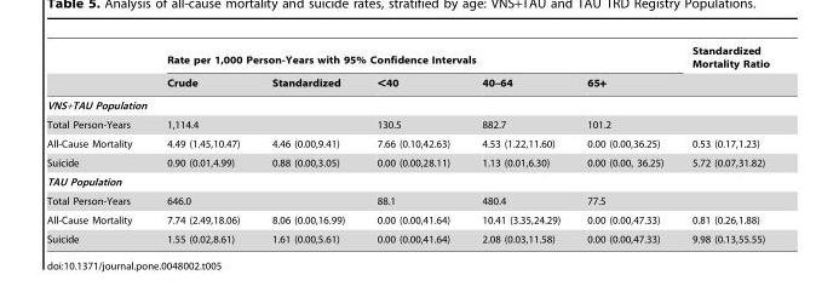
<table><thead><tr><td rowspan="2"></td><td colspan="5">Rate per 1,000 Person-Years with 95% Confidence Intervals</td><td rowspan="2">Standardized Mortality Ratio</td></tr><tr><td>Crude</td><td>Standardized</td><td>&lt;40</td><td>40–64</td><td>65+</td></tr></thead><tbody><tr><td colspan="7">VNS+TAU Population</td></tr><tr><td>Total Person-Years</td><td>1,114.4</td><td></td><td>130.5</td><td>882.7</td><td>101.2</td><td></td></tr><tr><td>All-Cause Mortality</td><td>4.49 (1.45,10.47)</td><td>4.46 (0.00,9.41)</td><td>7.66 (0.10,42.63)</td><td>4.53 (1.22,11.60)</td><td>0.00 (0.00,36.25)</td><td>0.53 (0.17,1.23)</td></tr><tr><td>Suicide</td><td>0.90 (0.01,4.99)</td><td>0.88 (0.00,3.05)</td><td>0.00 (0.00,28.11)</td><td>1.13 (0.01,6.30)</td><td>0.00 (0.00, 36.25)</td><td>5.72 (0.07,31.82)</td></tr><tr><td colspan="7">TAU Population</td></tr><tr><td>Total Person-Years</td><td>646.0</td><td></td><td>88.1</td><td>480.4</td><td>77.5</td><td></td></tr><tr><td>All-Cause Mortality</td><td>7.74 (2.49,18.06)</td><td>8.06 (0.00,16.99)</td><td>0.00 (0.00,41.64)</td><td>10.41 (3.35,24.29)</td><td>0.00 (0.00,47.33)</td><td>0.81 (0.26,1.88)</td></tr><tr><td>Suicide</td><td>1.55 (0.02,8.61)</td><td>1.61 (0.00,5.61)</td><td>0.00 (0.00,41.64)</td><td>2.08 (0.03,11.58)</td><td>0.00 (0.00,47.33)</td><td>9.98 (0.13,55.55)</td></tr></tbody></table>